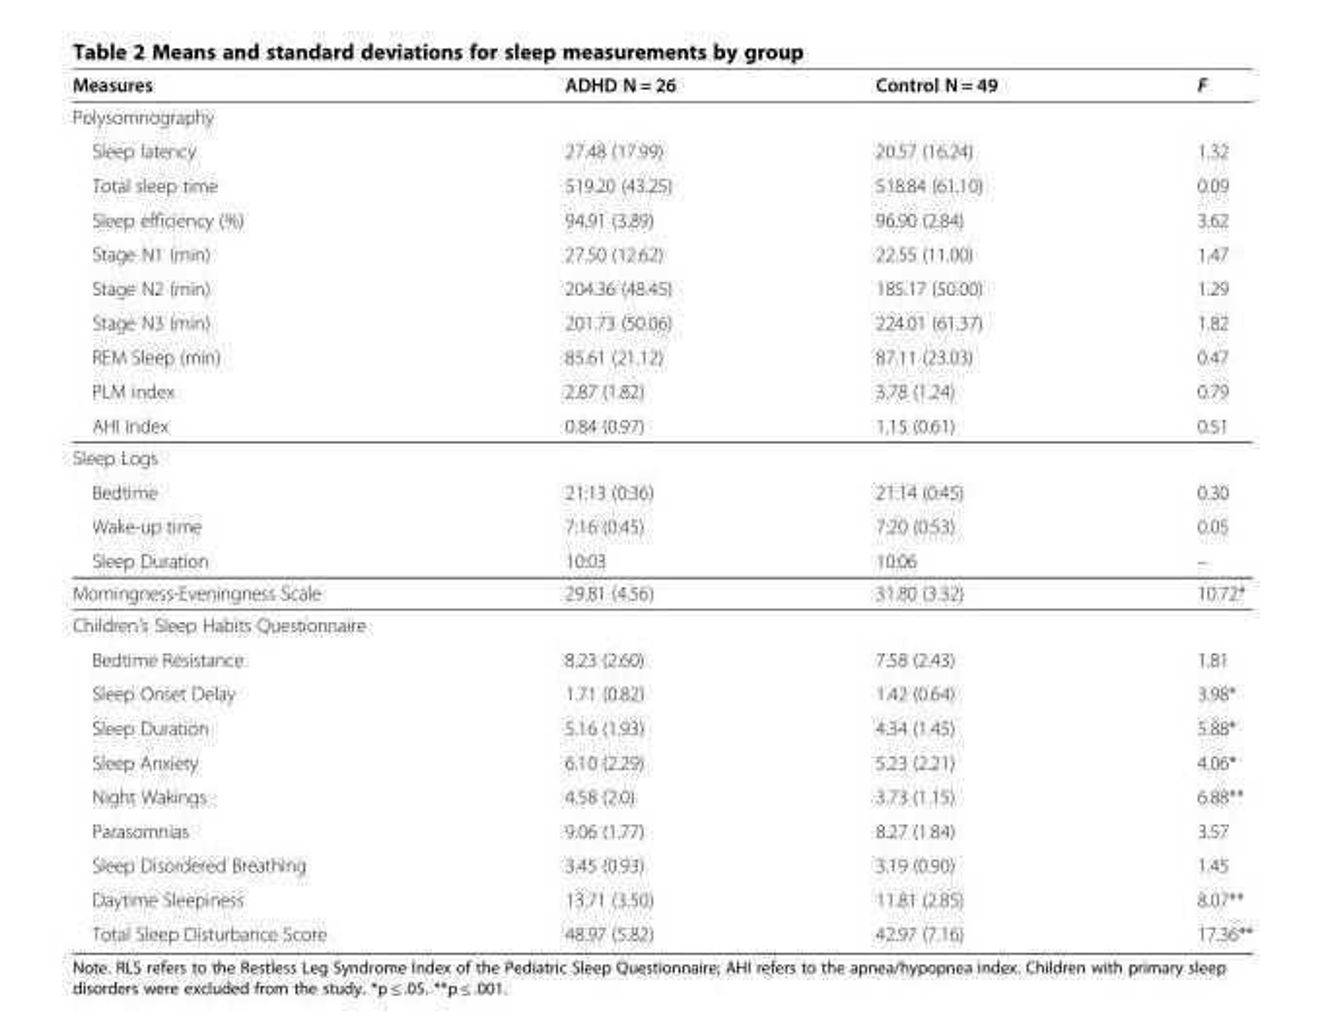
<table><thead><tr><td>Measures</td><td>ADHD N = 26</td><td>Control N = 49</td><td>F</td></tr></thead><tbody><tr><td colspan="4">Polysomnography</td></tr><tr><td>Sleep latency</td><td>27.48 (17.99)</td><td>20.57 (16.24)</td><td>1.32</td></tr><tr><td>Total sleep time</td><td>519.20 (43.25)</td><td>518.84 (61.10)</td><td>0.09</td></tr><tr><td>Sleep efficiency (%)</td><td>94.91 (3.89)</td><td>96.90 (2.84)</td><td>3.62</td></tr><tr><td>Stage N1 (min)</td><td>27.50 (12.62)</td><td>22.55 (11.00)</td><td>1.47</td></tr><tr><td>Stage N2 (min)</td><td>204.36 (48.45)</td><td>185.17 (50.00)</td><td>1.29</td></tr><tr><td>Stage N3 (min)</td><td>201.73 (50.06)</td><td>224.01 (61.37)</td><td>1.82</td></tr><tr><td>REM Sleep (min)</td><td>85.61 (21.12)</td><td>87.11 (23.03)</td><td>0.47</td></tr><tr><td>PLM index</td><td>2.87 (1.82)</td><td>3.78 (1.24)</td><td>0.79</td></tr><tr><td>AHI Index</td><td>0.84 (0.97)</td><td>1.15 (0.61)</td><td>0.51</td></tr><tr><td colspan="4">Sleep Logs</td></tr><tr><td>Bedtime</td><td>21:13 (0:36)</td><td>21:14 (0:45)</td><td>0.30</td></tr><tr><td>Wake-up time</td><td>7:16 (0:45)</td><td>7:20 (0:53)</td><td>0.05</td></tr><tr><td>Sleep Duration</td><td>10:03</td><td>10:06</td><td>–</td></tr><tr><td>Morningness-Eveningness Scale</td><td>29.81 (4.56)</td><td>31.80 (3.32)</td><td>10.72*</td></tr><tr><td colspan="4">Children’s Sleep Habits Questionnaire</td></tr><tr><td>Bedtime Resistance</td><td>8.23 (2.60)</td><td>7.58 (2.43)</td><td>1.81</td></tr><tr><td>Sleep Onset Delay</td><td>1.71 (0.82)</td><td>1.42 (0.64)</td><td>3.98*</td></tr><tr><td>Sleep Duration</td><td>5.16 (1.93)</td><td>4.34 (1.45)</td><td>5.88*</td></tr><tr><td>Sleep Anxiety</td><td>6.10 (2.29)</td><td>5.23 (2.21)</td><td>4.06*</td></tr><tr><td>Night Wakings</td><td>4.58 (2.0)</td><td>3.73 (1.15)</td><td>6.88**</td></tr><tr><td>Parasomnias</td><td>9.06 (1.77)</td><td>8.27 (1.84)</td><td>3.57</td></tr><tr><td>Sleep Disordered Breathing</td><td>3.45 (0.93)</td><td>3.19 (0.90)</td><td>1.45</td></tr><tr><td>Daytime Sleepiness</td><td>13.71 (3.50)</td><td>11.81 (2.85)</td><td>8.07**</td></tr><tr><td>Total Sleep Disturbance Score</td><td>48.97 (5.82)</td><td>42.97 (7.16)</td><td>17.36**</td></tr></tbody></table>